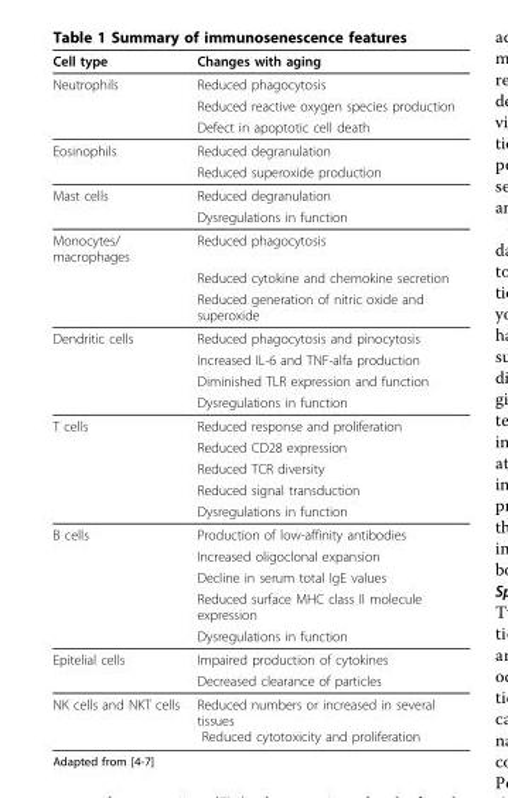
<table><thead><tr><td>Cell type</td><td>Changes with aging</td></tr></thead><tbody><tr><td rowspan="3">Neutrophils</td><td>Reduced phagocytosis</td></tr><tr><td>Reduced reactive oxygen species production</td></tr><tr><td>Defect in apoptotic cell death</td></tr><tr><td rowspan="2">Eosinophils</td><td>Reduced degranulation</td></tr><tr><td>Reduced superoxide production</td></tr><tr><td rowspan="2">Mast cells</td><td>Reduced degranulation</td></tr><tr><td>Dysregulations in function</td></tr><tr><td rowspan="3">Monocytes/ macrophages</td><td>Reduced phagocytosis</td></tr><tr><td>Reduced cytokine and chemokine secretion</td></tr><tr><td>Reduced generation of nitric oxide and superoxide</td></tr><tr><td rowspan="4">Dendritic cells</td><td>Reduced phagocytosis and pinocytosis</td></tr><tr><td>Increased IL-6 and TNF-alfa production</td></tr><tr><td>Diminished TLR expression and function</td></tr><tr><td>Dysregulations in function</td></tr><tr><td rowspan="5">T cells</td><td>Reduced response and proliferation</td></tr><tr><td>Reduced CD28 expression</td></tr><tr><td>Reduced TCR diversity</td></tr><tr><td>Reduced signal transduction</td></tr><tr><td>Dysregulations in function</td></tr><tr><td rowspan="5">B cells</td><td>Production of low-affinity antibodies</td></tr><tr><td>Increased oligoclonal expansion</td></tr><tr><td>Decline in serum total IgE values</td></tr><tr><td>Reduced surface MHC class II molecule expression</td></tr><tr><td>Dysregulations in function</td></tr><tr><td rowspan="2">Epitelial cells</td><td>Impaired production of cytokines</td></tr><tr><td>Decreased clearance of particles</td></tr><tr><td>NK cells and NKT cells</td><td>Reduced numbers or increased in several tissues Reduced cytotoxicity and proliferation</td></tr></tbody></table>